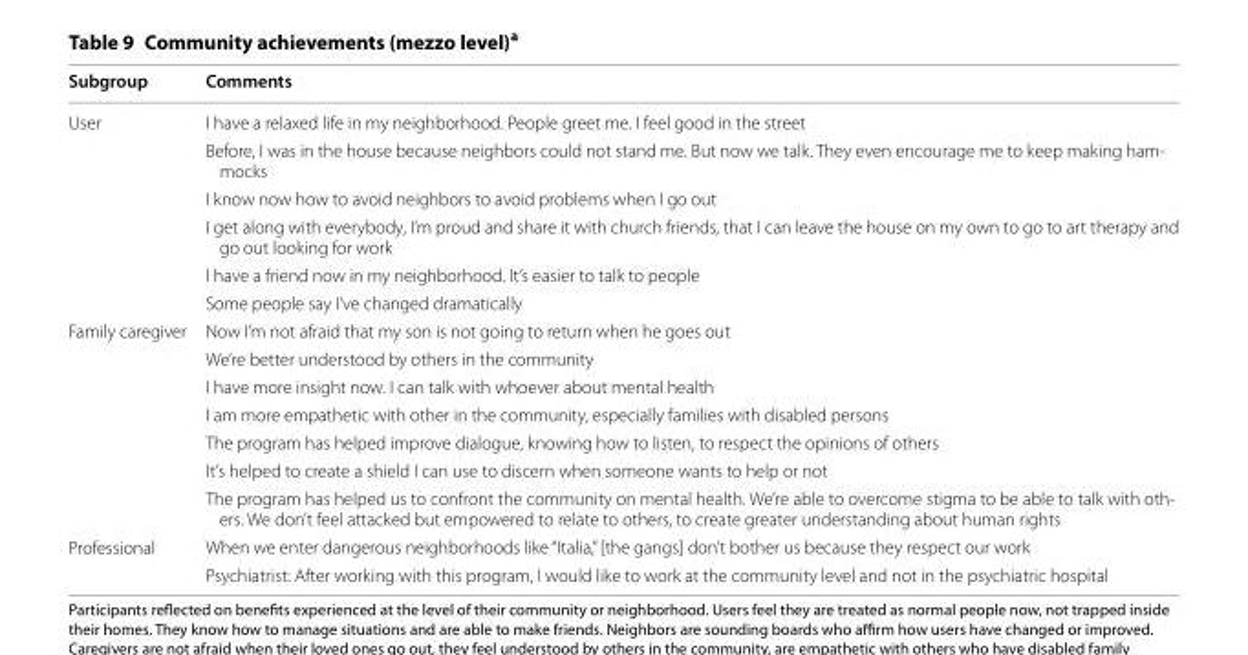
<table><thead><tr><td>Subgroup</td><td>Comments</td></tr></thead><tbody><tr><td rowspan="6">User</td><td>I have a relaxed life in my neighborhood. People greet me. I feel good in the street</td></tr><tr><td>Before, I was in the house because neighbors could not stand me. But now we talk. They even encourage me to keep making ham- mocks</td></tr><tr><td>I know now how to avoid neighbors to avoid problems when I go out</td></tr><tr><td>I get along with everybody, I’m proud and share it with church friends, that I can leave the house on my own to go to art therapy and go out looking for work</td></tr><tr><td>I have a friend now in my neighborhood. It’s easier to talk to people</td></tr><tr><td>Some people say I’ve changed dramatically</td></tr><tr><td rowspan="7">Family caregiver</td><td>Now I’m not afraid that my son is not going to return when he goes out</td></tr><tr><td>We’re better understood by others in the community</td></tr><tr><td>I have more insight now. I can talk with whoever about mental health</td></tr><tr><td>I am more empathetic with other in the community, especially families with disabled persons</td></tr><tr><td>The program has helped improve dialogue, knowing how to listen, to respect the opinions of others</td></tr><tr><td>It’s helped to create a shield I can use to discern when someone wants to help or not</td></tr><tr><td>The program has helped us to confront the community on mental health. We’re able to overcome stigma to be able to talk with oth- ers. We don’t feel attacked but empowered to relate to others, to create greater understanding about human rights</td></tr><tr><td rowspan="2">Professional</td><td>When we enter dangerous neighborhoods like “Italia,” [the gangs] don’t bother us because they respect our work</td></tr><tr><td>Psychiatrist: After working with this program, I would like to work at the community level and not in the psychiatric hospital</td></tr></tbody></table>